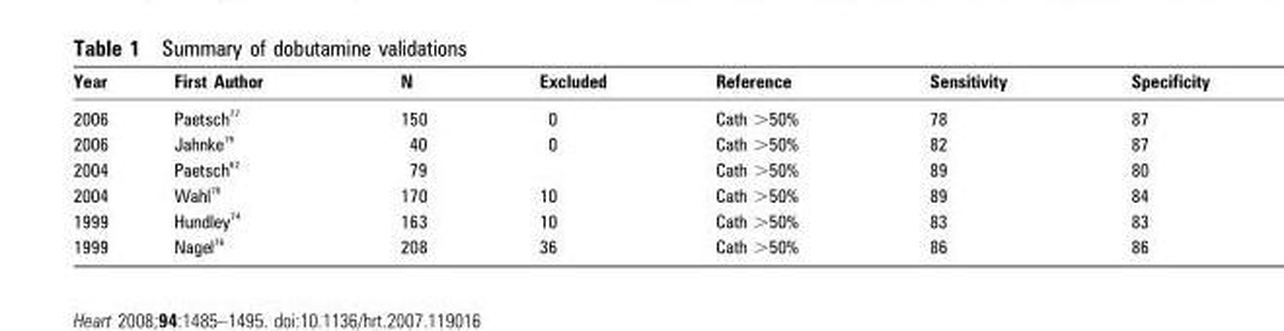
<table><thead><tr><td>Year</td><td>First Author</td><td>N</td><td>Excluded</td><td>Reference</td><td>Sensitivity</td><td>Specificity</td></tr></thead><tbody><tr><td>2006</td><td>Paetsch <sup>77</sup></td><td>150</td><td>0</td><td>Cath &gt;50%</td><td>78</td><td>87</td></tr><tr><td>2006</td><td>Jahnke <sup>75</sup></td><td>40</td><td>0</td><td>Cath &gt;50%</td><td>82</td><td>87</td></tr><tr><td>2004</td><td>Paetsch <sup>62</sup></td><td>79</td><td></td><td>Cath &gt;50%</td><td>89</td><td>80</td></tr><tr><td>2004</td><td>Wahl <sup>78</sup></td><td>170</td><td>10</td><td>Cath &gt;50%</td><td>89</td><td>84</td></tr><tr><td>1999</td><td>Hundley <sup>74</sup></td><td>163</td><td>10</td><td>Cath &gt;50%</td><td>83</td><td>83</td></tr><tr><td>1999</td><td>Nagel <sup>76</sup></td><td>208</td><td>36</td><td>Cath &gt;50%</td><td>86</td><td>86</td></tr></tbody></table>